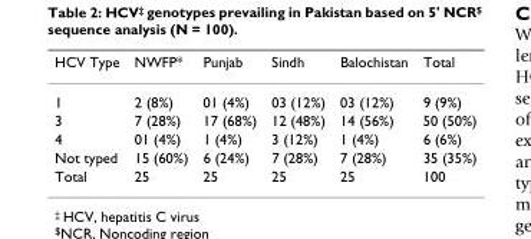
<table><thead><tr><td>HCV Type</td><td>NWFP*</td><td>Punjab</td><td>Sindh</td><td>Balochistan</td><td>Total</td></tr></thead><tbody><tr><td>1</td><td>2 (8%)</td><td>01 (4%)</td><td>03 (12%)</td><td>03 (12%)</td><td>9 (9%)</td></tr><tr><td>3</td><td>7 (28%)</td><td>17 (68%)</td><td>12 (48%)</td><td>14 (56%)</td><td>50 (50%)</td></tr><tr><td>4</td><td>01 (4%)</td><td>1 (4%)</td><td>3 (12%)</td><td>1 (4%)</td><td>6 (6%)</td></tr><tr><td>Not typed</td><td>15 (60%)</td><td>6 (24%)</td><td>7 (28%)</td><td>7 (28%)</td><td>35 (35%)</td></tr><tr><td>Total</td><td>25</td><td>25</td><td>25</td><td>25</td><td>100</td></tr></tbody></table>